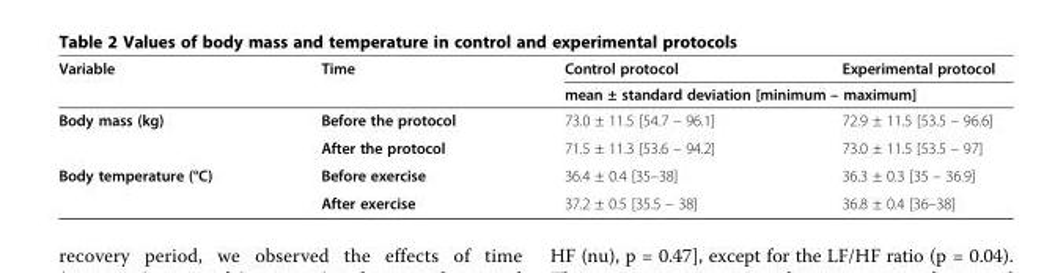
<table><thead><tr><td rowspan="2">Variable</td><td rowspan="2">Time</td><td>Control protocol</td><td>Experimental protocol</td></tr><tr><td colspan="2">mean ± standard deviation [minimum – maximum]</td></tr></thead><tbody><tr><td rowspan="2">Body mass (kg)</td><td>Before the protocol</td><td>73.0 ± 11.5 [54.7 – 96.1]</td><td>72.9 ± 11.5 [53.5 – 96.6]</td></tr><tr><td>After the protocol</td><td>71.5 ± 11.3 [53.6 – 94.2]</td><td>73.0 ± 11.5 [53.5 – 97]</td></tr><tr><td rowspan="2">Body temperature (°C)</td><td>Before exercise</td><td>36.4 ± 0.4 [35–38]</td><td>36.3 ± 0.3 [35 – 36.9]</td></tr><tr><td>After exercise</td><td>37.2 ± 0.5 [35.5 – 38]</td><td>36.8 ± 0.4 [36–38]</td></tr></tbody></table>